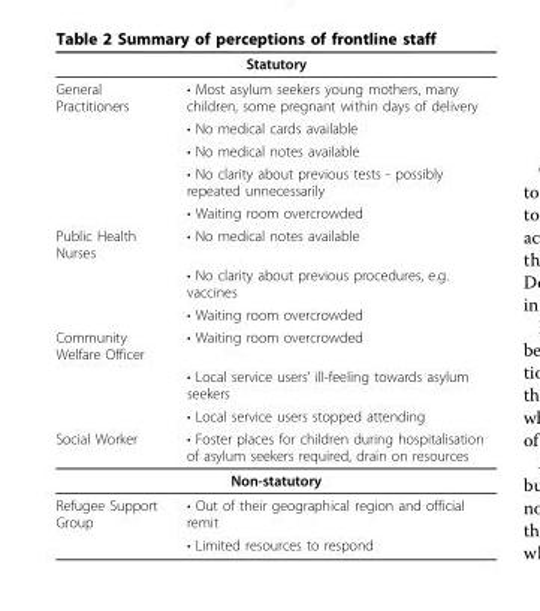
<table><thead><tr><td colspan="2">Statutory</td></tr><tr><td>General Practitioners</td><td>• Most asylum seekers young mothers, many children, some pregnant within days of delivery</td></tr></thead><tbody><tr><td></td><td>• No medical cards available</td></tr><tr><td></td><td>• No medical notes available</td></tr><tr><td></td><td>• No clarity about previous tests - possibly repeated unnecessarily</td></tr><tr><td></td><td>• Waiting room overcrowded</td></tr><tr><td rowspan="3">Public Health Nurses</td><td>• No medical notes available</td></tr><tr><td>• No clarity about previous procedures, e.g. vaccines</td></tr><tr><td>• Waiting room overcrowded</td></tr><tr><td rowspan="3">Community Welfare Officer</td><td>• Waiting room overcrowded</td></tr><tr><td>• Local service users’ ill-feeling towards asylum seekers</td></tr><tr><td>• Local service users stopped attending</td></tr><tr><td>Social Worker</td><td>• Foster places for children during hospitalisation of asylum seekers required, drain on resources</td></tr><tr><td colspan="2">Non-statutory</td></tr><tr><td rowspan="2">Refugee Support Group</td><td>• Out of their geographical region and official remit</td></tr><tr><td>• Limited resources to respond</td></tr></tbody></table>